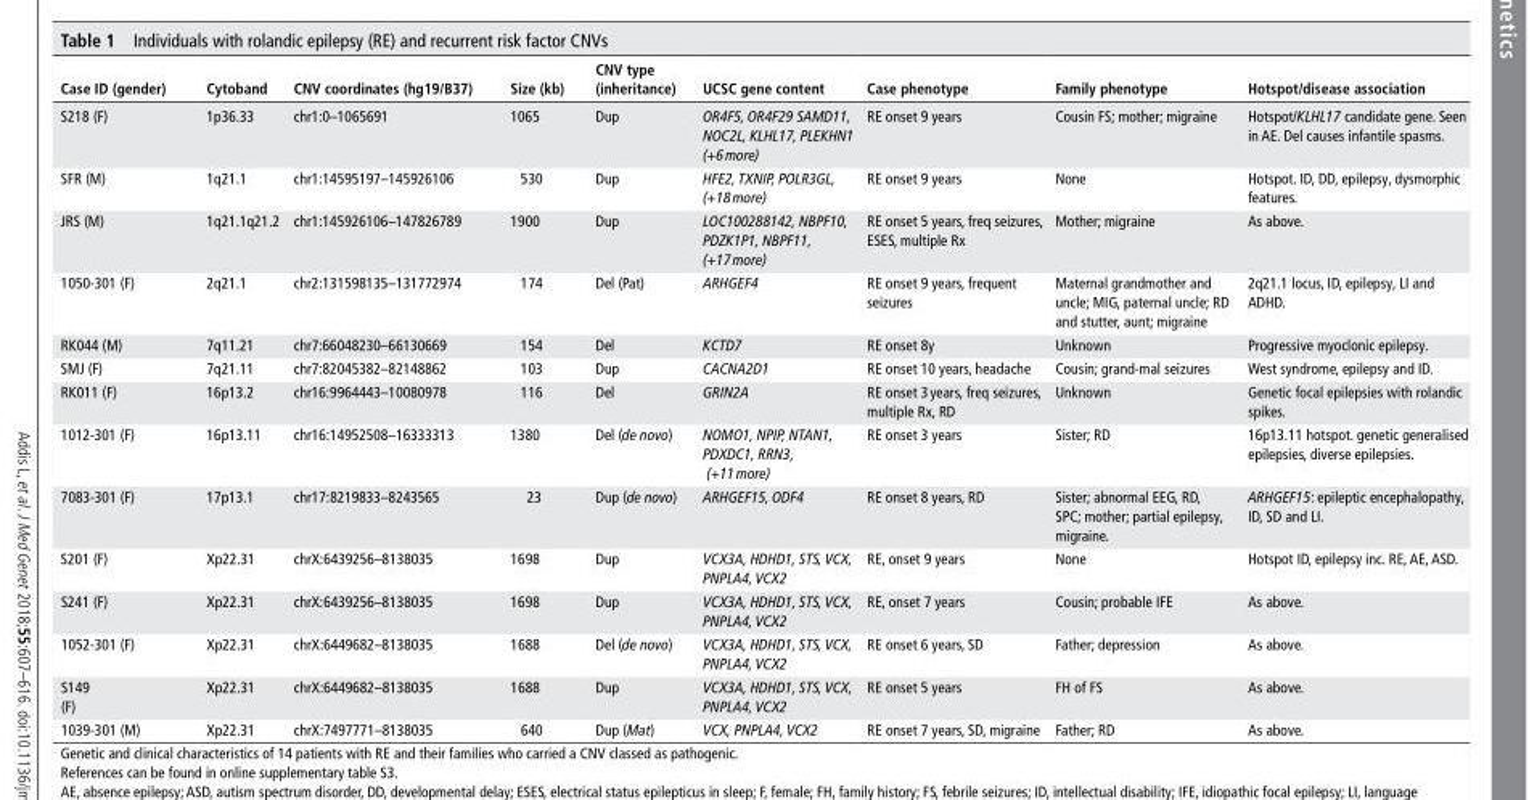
<table><thead><tr><td>Case Id (gender)</td><td>Cytoband</td><td>CNV coordinates (hg19/b37)</td><td>size (kb)</td><td>CNV type (inheritance)</td><td>uCsC gene content</td><td>Case phenotype</td><td>Family phenotype</td><td>hotspot/disease association</td></tr></thead><tbody><tr><td>S218 (F)</td><td>1p36.33</td><td>chr1:0–1065691</td><td>1065</td><td>Dup</td><td>OR4F5, OR4F29 SAMD11, NOC2L, KLHL17, PLEKHN1 (+6 more)</td><td>RE onset 9 years</td><td>Cousin FS; mother; migraine</td><td>Hotspot/KLHL17 candidate gene. Seen in AE. Del causes infantile spasms.</td></tr><tr><td>SFR (M)</td><td>1q21.1</td><td>chr1:14595197–145926106</td><td>530</td><td>Dup</td><td>HFE2, TXNIP, POLR3GL, (+18 more)</td><td>RE onset 9 years</td><td>None</td><td>Hotspot. ID, DD, epilepsy, dysmorphic features.</td></tr><tr><td>JRS (M)</td><td>1q21.1q21.2</td><td>chr1:145926106–147826789</td><td>1900</td><td>Dup</td><td>LOC100288142, NBPF10, PDZK1P1, NBPF11, (+17 more)</td><td>RE onset 5 years, freq seizures, ESES, multiple Rx</td><td>Mother; migraine</td><td>As above.</td></tr><tr><td>1050-301 (F)</td><td>2q21.1</td><td>chr2:131598135–131772974</td><td>174</td><td>Del (Pat)</td><td>ARHGEF4</td><td>RE onset 9 years, frequent seizures</td><td>Maternal grandmother and uncle; MIG, paternal uncle; RD and stutter, aunt; migraine</td><td>2q21.1 locus, ID, epilepsy, LI and ADHD.</td></tr><tr><td>RK044 (M)</td><td>7q11.21</td><td>chr7:66048230–66130669</td><td>154</td><td>Del</td><td>KCTD7</td><td>RE onset 8y</td><td>Unknown</td><td>Progressive myoclonic epilepsy.</td></tr><tr><td>SMJ (F)</td><td>7q21.11</td><td>chr7:82045382–82148862</td><td>103</td><td>Dup</td><td>CACNA2D1</td><td>RE onset 10 years, headache</td><td>Cousin; grand-mal seizures</td><td>West syndrome, epilepsy and ID.</td></tr><tr><td>RK011 (F)</td><td>16p13.2</td><td>chr16:9964443–10080978</td><td>116</td><td>Del</td><td>GRIN2A</td><td>RE onset 3 years, freq seizures, multiple Rx, RD</td><td>Unknown</td><td>Genetic focal epilepsies with rolandic spikes.</td></tr><tr><td>1012-301 (F)</td><td>16p13.11</td><td>chr16:14952508–16333313</td><td>1380</td><td>Del (de novo)</td><td>NOMO1, NPIP, NTAN1, PDXDC1, RRN3, (+11 more)</td><td>RE onset 3 years</td><td>Sister; RD</td><td>16p13.11 hotspot. genetic generalised epilepsies, diverse epilepsies.</td></tr><tr><td>7083-301 (F)</td><td>17p13.1</td><td>chr17:8219833–8243565</td><td>23</td><td>Dup (de novo)</td><td>ARHGEF15, ODF4</td><td>RE onset 8 years, RD</td><td>Sister; abnormal EEG, RD, SPC; mother; partial epilepsy, migraine.</td><td>ARHGEF15: epileptic encephalopathy, ID, SD and LI.</td></tr><tr><td>S201 (F)</td><td>Xp22.31</td><td>chrX:6439256–8138035</td><td>1698</td><td>Dup</td><td>VCX3A, HDHD1, STS, VCX, PNPLA4, VCX2</td><td>RE, onset 9 years</td><td>None</td><td>Hotspot ID, epilepsy inc. RE, AE, ASD.</td></tr><tr><td>S241 (F)</td><td>Xp22.31</td><td>chrX:6439256–8138035</td><td>1698</td><td>Dup</td><td>VCX3A, HDHD1, STS, VCX, PNPLA4, VCX2</td><td>RE, onset 7 years</td><td>Cousin; probable IFE</td><td>As above.</td></tr><tr><td>1052-301 (F)</td><td>Xp22.31</td><td>chrX:6449682–8138035</td><td>1688</td><td>Del (de novo)</td><td>VCX3A, HDHD1, STS, VCX, PNPLA4, VCX2</td><td>RE onset 6 years, SD</td><td>Father; depression</td><td>As above.</td></tr><tr><td>S149 (F)</td><td>Xp22.31</td><td>chrX:6449682–8138035</td><td>1688</td><td>Dup</td><td>VCX3A, HDHD1, STS, VCX, PNPLA4, VCX2</td><td>RE onset 5 years</td><td>FH of FS</td><td>As above.</td></tr><tr><td>1039-301 (M)</td><td>Xp22.31</td><td>chrX:7497771–8138035</td><td>640</td><td>Dup (Mat)</td><td>VCX, PNPLA4, VCX2</td><td>RE onset 7 years, SD, migraine</td><td>Father; RD</td><td>As above.</td></tr></tbody></table>